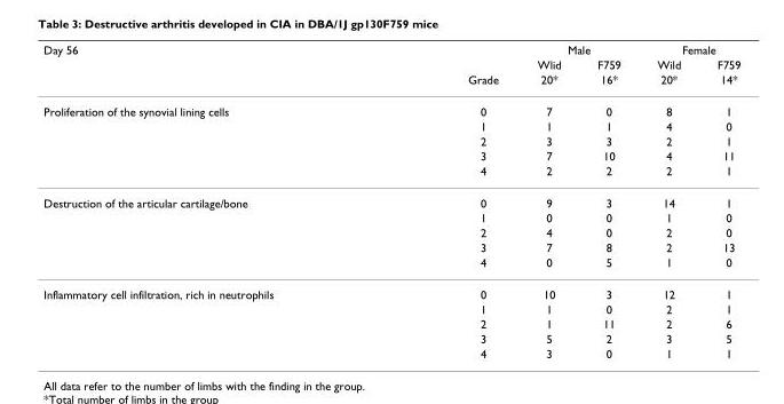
<table><thead><tr><td rowspan="3">Day 56</td><td rowspan="3">Grade</td><td colspan="2">Male</td><td colspan="2">Female</td></tr><tr><td rowspan="2">Wlid 20*</td><td rowspan="2">F759 16*</td><td rowspan="2">Wild 20*</td><td rowspan="2">F759 14*</td></tr><tr></tr></thead><tbody><tr><td rowspan="5">Proliferation of the synovial lining cells</td><td>0</td><td>7</td><td>0</td><td>8</td><td>1</td></tr><tr><td>1</td><td>1</td><td>1</td><td>4</td><td>0</td></tr><tr><td>2</td><td>3</td><td>3</td><td>2</td><td>1</td></tr><tr><td>3</td><td>7</td><td>10</td><td>4</td><td>11</td></tr><tr><td>4</td><td>2</td><td>2</td><td>2</td><td>1</td></tr><tr><td rowspan="5">Destruction of the articular cartilage/bone</td><td>0</td><td>9</td><td>3</td><td>14</td><td>1</td></tr><tr><td>1</td><td>0</td><td>0</td><td>1</td><td>0</td></tr><tr><td>2</td><td>4</td><td>0</td><td>2</td><td>0</td></tr><tr><td>3</td><td>7</td><td>8</td><td>2</td><td>13</td></tr><tr><td>4</td><td>0</td><td>5</td><td>1</td><td>0</td></tr><tr><td rowspan="5">Inflammatory cell infiltration, rich in neutrophils</td><td>0</td><td>10</td><td>3</td><td>12</td><td>1</td></tr><tr><td>1</td><td>1</td><td>0</td><td>2</td><td>1</td></tr><tr><td>2</td><td>1</td><td>11</td><td>2</td><td>6</td></tr><tr><td>3</td><td>5</td><td>2</td><td>3</td><td>5</td></tr><tr><td>4</td><td>3</td><td>0</td><td>1</td><td>1</td></tr></tbody></table>